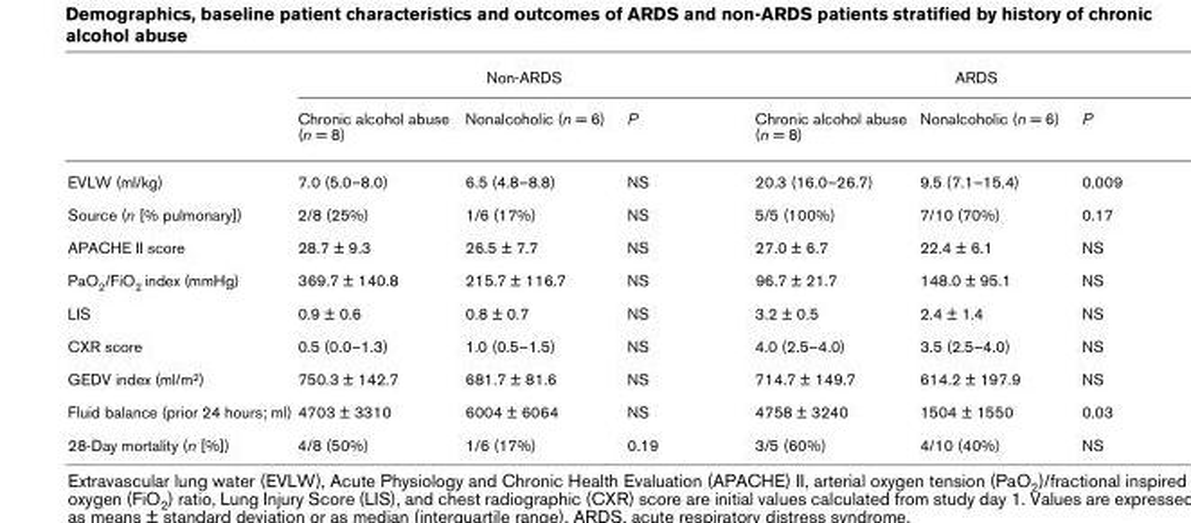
<table><thead><tr><td rowspan="2"></td><td colspan="3">Non-ARDS</td><td colspan="3">ARDS</td></tr><tr><td>Chronic alcohol abuse (n = 8)</td><td>Nonalcoholic (n = 6)</td><td>P</td><td>Chronic alcohol abuse (n = 8)</td><td>Nonalcoholic (n = 6)</td><td>P</td></tr></thead><tbody><tr><td>EVLW (ml/kg)</td><td>7.0 (5.0–8.0)</td><td>6.5 (4.8–8.8)</td><td>NS</td><td>20.3 (16.0–26.7)</td><td>9.5 (7.1–15.4)</td><td>0.009</td></tr><tr><td>Source (n [% pulmonary])</td><td>2/8 (25%)</td><td>1/6 (17%)</td><td>NS</td><td>5/5 (100%)</td><td>7/10 (70%)</td><td>0.17</td></tr><tr><td>APACHE II score</td><td>28.7 ± 9.3</td><td>26.5 ± 7.7</td><td>NS</td><td>27.0 ± 6.7</td><td>22.4 ± 6.1</td><td>NS</td></tr><tr><td>PaO2/FiO2 index (mmHg)</td><td>369.7 ± 140.8</td><td>215.7 ± 116.7</td><td>NS</td><td>96.7 ± 21.7</td><td>148.0 ± 95.1</td><td>NS</td></tr><tr><td>LIS</td><td>0.9 ± 0.6</td><td>0.8 ± 0.7</td><td>NS</td><td>3.2 ± 0.5</td><td>2.4 ± 1.4</td><td>NS</td></tr><tr><td>CXR score</td><td>0.5 (0.0–1.3)</td><td>1.0 (0.5–1.5)</td><td>NS</td><td>4.0 (2.5–4.0)</td><td>3.5 (2.5–4.0)</td><td>NS</td></tr><tr><td>GEDV index (ml/m2)</td><td>750.3 ± 142.7</td><td>681.7 ± 81.6</td><td>NS</td><td>714.7 ± 149.7</td><td>614.2 ± 197.9</td><td>NS</td></tr><tr><td>Fluid balance (prior 24 hours; ml)</td><td>4703 ± 3310</td><td>6004 ± 6064</td><td>NS</td><td>4758 ± 3240</td><td>1504 ± 1550</td><td>0.03</td></tr><tr><td>28-Day mortality (n [%])</td><td>4/8 (50%)</td><td>1/6 (17%)</td><td>0.19</td><td>3/5 (60%)</td><td>4/10 (40%)</td><td>NS</td></tr></tbody></table>